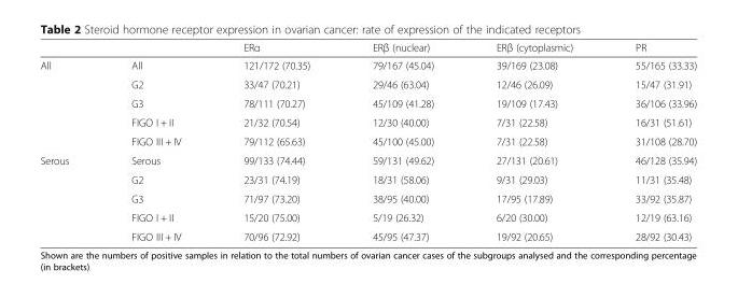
<table><thead><tr><td></td><td></td><td>ERα</td><td>ERβ (nuclear)</td><td>ERβ (cytoplasmic)</td><td>PR</td></tr></thead><tbody><tr><td rowspan="5">All</td><td>All</td><td>121/172 (70.35)</td><td>79/167 (45.04)</td><td>39/169 (23.08)</td><td>55/165 (33.33)</td></tr><tr><td>G2</td><td>33/47 (70.21)</td><td>29/46 (63.04)</td><td>12/46 (26.09)</td><td>15/47 (31.91)</td></tr><tr><td>G3</td><td>78/111 (70.27)</td><td>45/109 (41.28)</td><td>19/109 (17.43)</td><td>36/106 (33.96)</td></tr><tr><td>FIGO I + II</td><td>21/32 (70.54)</td><td>12/30 (40.00)</td><td>7/31 (22.58)</td><td>16/31 (51.61)</td></tr><tr><td>FIGO III + IV</td><td>79/112 (65.63)</td><td>45/100 (45.00)</td><td>7/31 (22.58)</td><td>31/108 (28.70)</td></tr><tr><td rowspan="5">Serous</td><td>Serous</td><td>99/133 (74.44)</td><td>59/131 (49.62)</td><td>27/131 (20.61)</td><td>46/128 (35.94)</td></tr><tr><td>G2</td><td>23/31 (74.19)</td><td>18/31 (58.06)</td><td>9/31 (29.03)</td><td>11/31 (35.48)</td></tr><tr><td>G3</td><td>71/97 (73.20)</td><td>38/95 (40.00)</td><td>17/95 (17.89)</td><td>33/92 (35.87)</td></tr><tr><td>FIGO I + II</td><td>15/20 (75.00)</td><td>5/19 (26.32)</td><td>6/20 (30.00)</td><td>12/19 (63.16)</td></tr><tr><td>FIGO III + IV</td><td>70/96 (72.92)</td><td>45/95 (47.37)</td><td>19/92 (20.65)</td><td>28/92 (30.43)</td></tr></tbody></table>